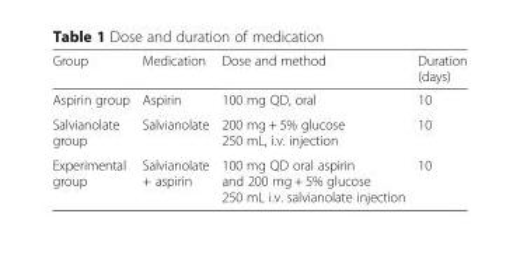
<table><thead><tr><td>Group</td><td>Medication</td><td>Dose and method</td><td>Duration (days)</td></tr></thead><tbody><tr><td>Aspirin group</td><td>Aspirin</td><td>100 mg QD, oral</td><td>10</td></tr><tr><td>Salvianolate group</td><td>Salvianolate</td><td>200 mg + 5% glucose 250 mL, i.v. injection</td><td>10</td></tr><tr><td>Experimental group</td><td>Salvianolate + aspirin</td><td>100 mg QD oral aspirin and 200 mg + 5% glucose 250 mL i.v. salvianolate injection</td><td>10</td></tr></tbody></table>